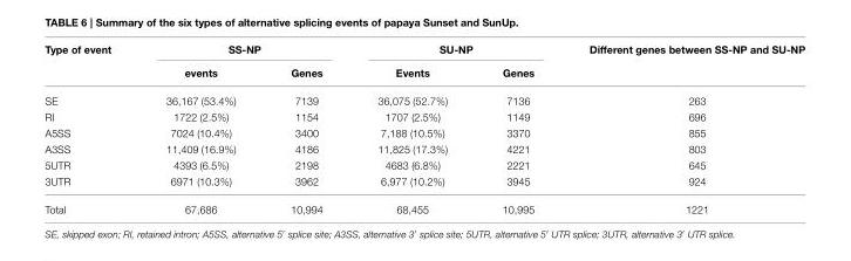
<table><thead><tr><td rowspan="2">Type of event</td><td colspan="2">SS-NP</td><td colspan="2">SU-NP</td><td rowspan="2">Different genes between SS-NP and SU-NP</td></tr><tr><td>events</td><td>Genes</td><td>Events</td><td>Genes</td></tr></thead><tbody><tr><td>SE</td><td>36,167 (53.4%)</td><td>7139</td><td>36,075 (52.7%)</td><td>7136</td><td>263</td></tr><tr><td>RI</td><td>1722 (2.5%)</td><td>1154</td><td>1707 (2.5%)</td><td>1149</td><td>696</td></tr><tr><td>A5SS</td><td>7024 (10.4%)</td><td>3400</td><td>7,188 (10.5%)</td><td>3370</td><td>855</td></tr><tr><td>A3SS</td><td>11,409 (16.9%)</td><td>4186</td><td>11,825 (17.3%)</td><td>4221</td><td>803</td></tr><tr><td>5UTR</td><td>4393 (6.5%)</td><td>2198</td><td>4683 (6.8%)</td><td>2221</td><td>645</td></tr><tr><td>3UTR</td><td>6971 (10.3%)</td><td>3962</td><td>6,977 (10.2%)</td><td>3945</td><td>924</td></tr><tr><td>Total</td><td>67,686</td><td>10,994</td><td>68,455</td><td>10,995</td><td>1221</td></tr></tbody></table>